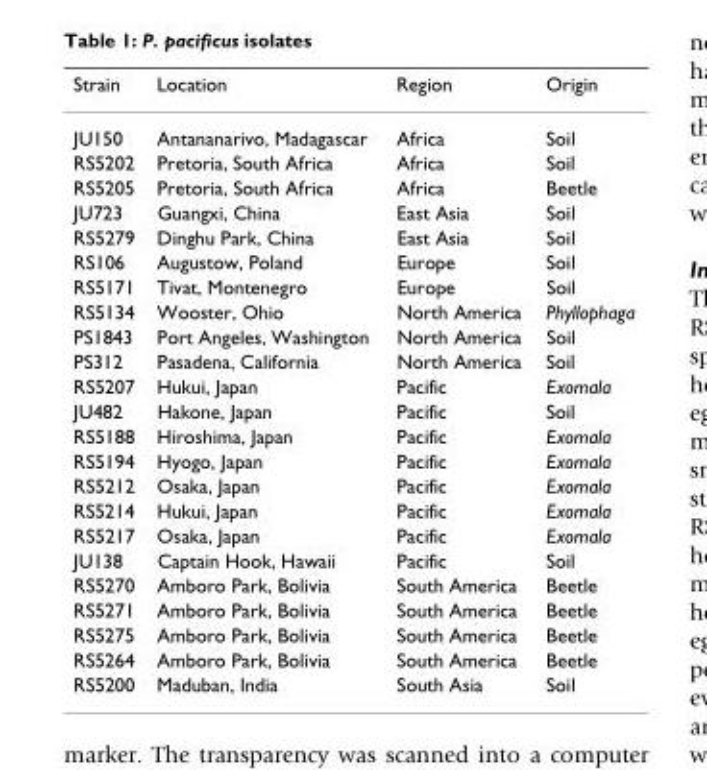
<table><thead><tr><td>Strain</td><td>Location</td><td>Region</td><td>Origin</td></tr></thead><tbody><tr><td>JU150</td><td>Antananarivo, Madagascar</td><td>Africa</td><td>Soil</td></tr><tr><td>RS5202</td><td>Pretoria, South Africa</td><td>Africa</td><td>Soil</td></tr><tr><td>RS5205</td><td>Pretoria, South Africa</td><td>Africa</td><td>Beetle</td></tr><tr><td>JU723</td><td>Guangxi, China</td><td>East Asia</td><td>Soil</td></tr><tr><td>RS5279</td><td>Dinghu Park, China</td><td>East Asia</td><td>Soil</td></tr><tr><td>RS106</td><td>Augustow, Poland</td><td>Europe</td><td>Soil</td></tr><tr><td>RS5171</td><td>Tivat, Montenegro</td><td>Europe</td><td>Soil</td></tr><tr><td>RS5134</td><td>Wooster, Ohio</td><td>North America</td><td>Phyllophaga</td></tr><tr><td>PS1843</td><td>Port Angeles, Washington</td><td>North America</td><td>Soil</td></tr><tr><td>PS312</td><td>Pasadena, California</td><td>North America</td><td>Soil</td></tr><tr><td>RS5207</td><td>Hukui, Japan</td><td>Pacific</td><td>Exomala</td></tr><tr><td>JU482</td><td>Hakone, Japan</td><td>Pacific</td><td>Soil</td></tr><tr><td>RS5188</td><td>Hiroshima, Japan</td><td>Pacific</td><td>Exomala</td></tr><tr><td>RS5194</td><td>Hyogo, Japan</td><td>Pacific</td><td>Exomala</td></tr><tr><td>RS5212</td><td>Osaka, Japan</td><td>Pacific</td><td>Exomala</td></tr><tr><td>RS5214</td><td>Hukui, Japan</td><td>Pacific</td><td>Exomala</td></tr><tr><td>RS5217</td><td>Osaka, Japan</td><td>Pacific</td><td>Exomala</td></tr><tr><td>JU138</td><td>Captain Hook, Hawaii</td><td>Pacific</td><td>Soil</td></tr><tr><td>RS5270</td><td>Amboro Park, Bolivia</td><td>South America</td><td>Beetle</td></tr><tr><td>RS5271</td><td>Amboro Park, Bolivia</td><td>South America</td><td>Beetle</td></tr><tr><td>RS5275</td><td>Amboro Park, Bolivia</td><td>South America</td><td>Beetle</td></tr><tr><td>RS5264</td><td>Amboro Park, Bolivia</td><td>South America</td><td>Beetle</td></tr><tr><td>RS5200</td><td>Maduban, India</td><td>South Asia</td><td>Soil</td></tr></tbody></table>